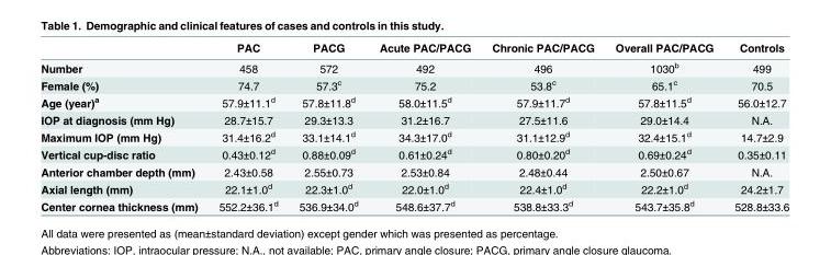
<table><thead><tr><td></td><td>PAC</td><td>PACG</td><td>Acute PAC/PACG</td><td>Chronic PAC/PACG</td><td>Overall PAC/PACG</td><td>Controls</td></tr></thead><tbody><tr><td>Number</td><td>458</td><td>572</td><td>492</td><td>496</td><td>1030<sup>b</sup></td><td>499</td></tr><tr><td>Female (%)</td><td>74.7</td><td>57.3<sup>c</sup></td><td>75.2</td><td>53.8<sup>c</sup></td><td>65.1<sup>c</sup></td><td>70.5</td></tr><tr><td>Age (year)<sup>a</sup></td><td>57.9±11.1<sup>d</sup></td><td>57.8±11.8<sup>d</sup></td><td>58.0±11.5<sup>d</sup></td><td>57.9±11.7<sup>d</sup></td><td>57.8±11.5<sup>d</sup></td><td>56.0±12.7</td></tr><tr><td>IOP at diagnosis (mm Hg)</td><td>28.7±15.7</td><td>29.3±13.3</td><td>31.2±16.7</td><td>27.5±11.6</td><td>29.0±14.4</td><td>N.A.</td></tr><tr><td>Maximum IOP (mm Hg)</td><td>31.4±16.2<sup>d</sup></td><td>33.1±14.1<sup>d</sup></td><td>34.3±17.0<sup>d</sup></td><td>31.1±12.9<sup>d</sup></td><td>32.4±15.1<sup>d</sup></td><td>14.7±2.9</td></tr><tr><td>Vertical cup-disc ratio</td><td>0.43±0.12<sup>d</sup></td><td>0.88±0.09<sup>d</sup></td><td>0.61±0.24<sup>d</sup></td><td>0.80±0.20<sup>d</sup></td><td>0.69±0.24<sup>d</sup></td><td>0.35±0.11</td></tr><tr><td>Anterior chamber depth (mm)</td><td>2.43±0.58</td><td>2.55±0.73</td><td>2.53±0.84</td><td>2.48±0.44</td><td>2.50±0.67</td><td>N.A.</td></tr><tr><td>Axial length (mm)</td><td>22.1±1.0<sup>d</sup></td><td>22.3±1.0<sup>d</sup></td><td>22.0±1.0<sup>d</sup></td><td>22.4±1.0<sup>d</sup></td><td>22.2±1.0<sup>d</sup></td><td>24.2±1.7</td></tr><tr><td>Center cornea thickness (mm)</td><td>552.2±36.1<sup>d</sup></td><td>536.9±34.0<sup>d</sup></td><td>548.6±37.7<sup>d</sup></td><td>538.8±33.3<sup>d</sup></td><td>543.7±35.8<sup>d</sup></td><td>528.8±33.6</td></tr></tbody></table>